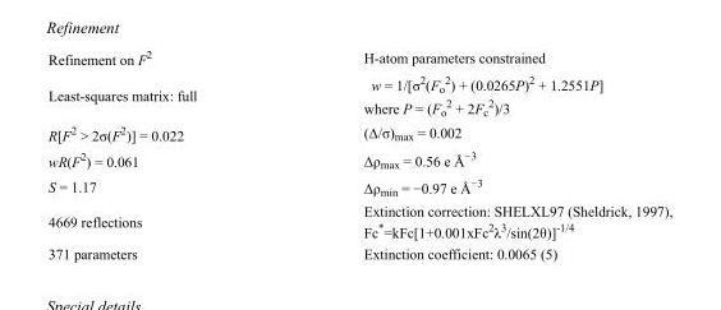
<table><tbody><tr><td>Refinement on F<sup>2</sup></td><td>H-atom parameters constrained</td></tr><tr><td>Least-squares matrix: full</td><td>w = 1/[σ<sup>2</sup>(F<sub>o</sub> <sup>2</sup>) + (0.0265P)<sup>2</sup> + 1.2551P] where P = (F<sub>o</sub> <sup>2</sup> + 2F<sub>c</sub> <sup>2</sup>)/3</td></tr><tr><td>R[F<sup>2</sup> &gt; 2σ(F<sup>2</sup>)] = 0.022</td><td>(Δ/σ)<sub>max</sub> = 0.002</td></tr><tr><td>wR(F<sup>2</sup>) = 0.061</td><td>Δρ<sub>max</sub> = 0.56 e Å<sup>−3</sup></td></tr><tr><td>S = 1.17</td><td>Δρ<sub>min</sub> = −0.97 e Å<sup>−3</sup></td></tr><tr><td>4669 reflections</td><td>Extinction correction: SHELXL97 (Sheldrick, 1997), Fc*=kFc[1+0.001xFc<sup>2</sup>λ<sup>3</sup>/sin(2θ)]<sup>-1/4</sup></td></tr><tr><td>371 parameters</td><td>Extinction coefficient: 0.0065 (5)</td></tr></tbody></table>